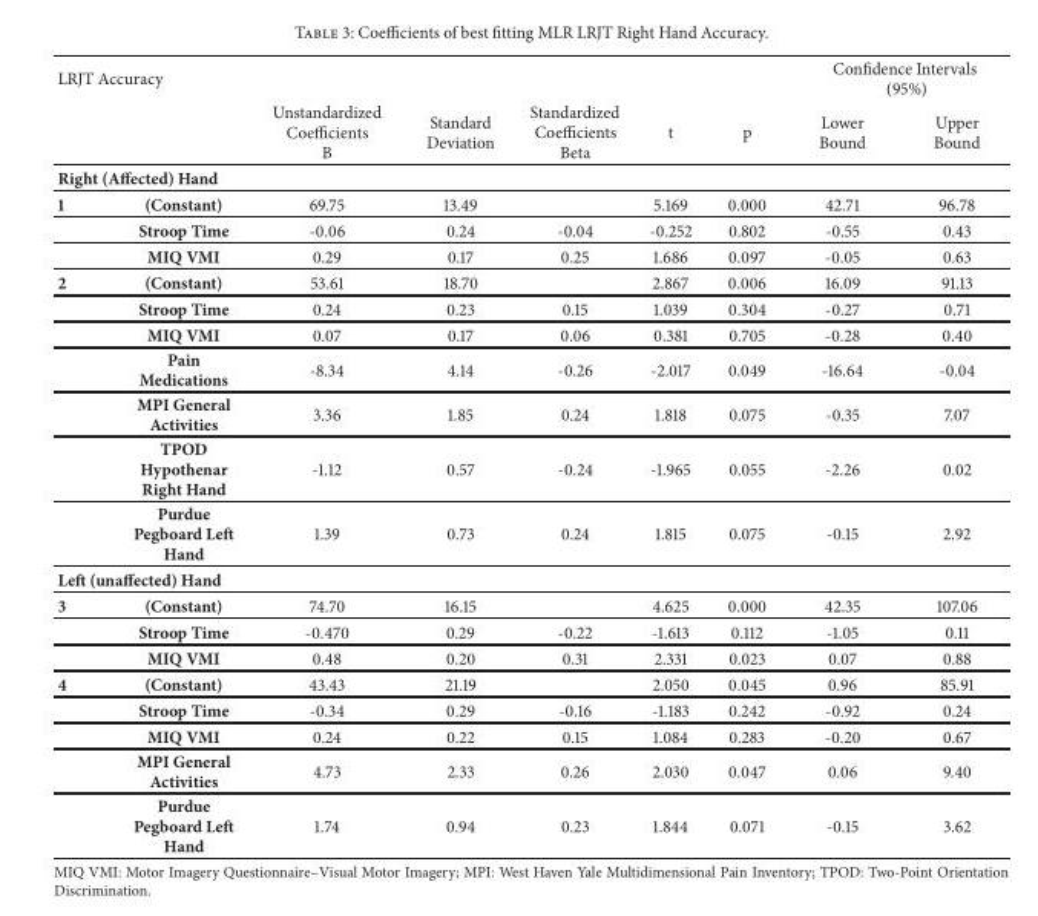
<table><thead><tr><td colspan="2">LRJT Accuracy</td><td rowspan="2">Unstandardized Coefficients B</td><td rowspan="2">Standard Deviation</td><td rowspan="2">Standardized Coefficients Beta</td><td rowspan="2">t</td><td rowspan="2">p</td><td colspan="2">Confidence Intervals (95%)</td></tr><tr><td></td><td></td><td>Lower Bound</td><td>Upper Bound</td></tr></thead><tbody><tr><td colspan="9">Right (Affected) Hand</td></tr><tr><td rowspan="3">1</td><td>(Constant)</td><td>69.75</td><td>13.49</td><td></td><td>5.169</td><td>0.000</td><td>42.71</td><td>96.78</td></tr><tr><td>Stroop Time</td><td>-0.06</td><td>0.24</td><td>-0.04</td><td>-0.252</td><td>0.802</td><td>-0.55</td><td>0.43</td></tr><tr><td>MIQ VMI</td><td>0.29</td><td>0.17</td><td>0.25</td><td>1.686</td><td>0.097</td><td>-0.05</td><td>0.63</td></tr><tr><td rowspan="7">2</td><td>(Constant)</td><td>53.61</td><td>18.70</td><td></td><td>2.867</td><td>0.006</td><td>16.09</td><td>91.13</td></tr><tr><td>Stroop Time</td><td>0.24</td><td>0.23</td><td>0.15</td><td>1.039</td><td>0.304</td><td>-0.27</td><td>0.71</td></tr><tr><td>MIQ VMI</td><td>0.07</td><td>0.17</td><td>0.06</td><td>0.381</td><td>0.705</td><td>-0.28</td><td>0.40</td></tr><tr><td>Pain Medications</td><td>-8.34</td><td>4.14</td><td>-0.26</td><td>-2.017</td><td>0.049</td><td>-16.64</td><td>-0.04</td></tr><tr><td>MPI General Activities</td><td>3.36</td><td>1.85</td><td>0.24</td><td>1.818</td><td>0.075</td><td>-0.35</td><td>7.07</td></tr><tr><td>TPOD Hypothenar Right Hand</td><td>-1.12</td><td>0.57</td><td>-0.24</td><td>-1.965</td><td>0.055</td><td>-2.26</td><td>0.02</td></tr><tr><td>Purdue Pegboard Left Hand</td><td>1.39</td><td>0.73</td><td>0.24</td><td>1.815</td><td>0.075</td><td>-0.15</td><td>2.92</td></tr><tr><td colspan="9">Left (unaffected) Hand</td></tr><tr><td rowspan="3">3</td><td>(Constant)</td><td>74.70</td><td>16.15</td><td></td><td>4.625</td><td>0.000</td><td>42.35</td><td>107.06</td></tr><tr><td>Stroop Time</td><td>-0.470</td><td>0.29</td><td>-0.22</td><td>-1.613</td><td>0.112</td><td>-1.05</td><td>0.11</td></tr><tr><td>MIQ VMI</td><td>0.48</td><td>0.20</td><td>0.31</td><td>2.331</td><td>0.023</td><td>0.07</td><td>0.88</td></tr><tr><td rowspan="5">4</td><td>(Constant)</td><td>43.43</td><td>21.19</td><td></td><td>2.050</td><td>0.045</td><td>0.96</td><td>85.91</td></tr><tr><td>Stroop Time</td><td>-0.34</td><td>0.29</td><td>-0.16</td><td>-1.183</td><td>0.242</td><td>-0.92</td><td>0.24</td></tr><tr><td>MIQ VMI</td><td>0.24</td><td>0.22</td><td>0.15</td><td>1.084</td><td>0.283</td><td>-0.20</td><td>0.67</td></tr><tr><td>MPI General Activities</td><td>4.73</td><td>2.33</td><td>0.26</td><td>2.030</td><td>0.047</td><td>0.06</td><td>9.40</td></tr><tr><td>Purdue Pegboard Left Hand</td><td>1.74</td><td>0.94</td><td>0.23</td><td>1.844</td><td>0.071</td><td>-0.15</td><td>3.62</td></tr></tbody></table>